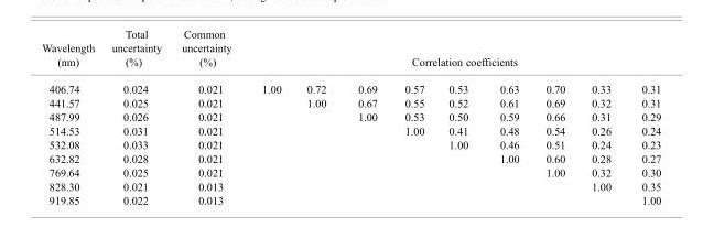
<table><thead><tr><td rowspan="2">Wavelength (nm) 406.74</td><td rowspan="2">uncertainty (%) 0.024</td><td rowspan="2">uncertainty (%) 0.021</td><td colspan="9">Correlation coefficients</td></tr><tr><td>1.00</td><td>0.72</td><td>0.69</td><td>0.57</td><td>0.53</td><td>0.63</td><td>0.70</td><td>0.33</td><td>0.31</td></tr></thead><tbody><tr><td>441.57</td><td>0.025</td><td>0.021</td><td></td><td>1.00</td><td>0.67</td><td>0.55</td><td>0.52</td><td>0.61</td><td>0.69</td><td>0.32</td><td>0.31</td></tr><tr><td>487.99</td><td>0.026</td><td>0.021</td><td></td><td></td><td>1.00</td><td>0.53</td><td>0.50</td><td>0.59</td><td>0.66</td><td>0.31</td><td>0.29</td></tr><tr><td>514.53</td><td>0.031</td><td>0.021</td><td></td><td></td><td></td><td>1.00</td><td>0.41</td><td>0.48</td><td>0.54</td><td>0.26</td><td>0.24</td></tr><tr><td>532.08</td><td>0.033</td><td>0.021</td><td></td><td></td><td></td><td></td><td>1.00</td><td>0.46</td><td>0.51</td><td>0.24</td><td>0.23</td></tr><tr><td>632.82</td><td>0.028</td><td>0.021</td><td></td><td></td><td></td><td></td><td></td><td>1.00</td><td>0.60</td><td>0.28</td><td>0.27</td></tr><tr><td>769.64</td><td>0.025</td><td>0.021</td><td></td><td></td><td></td><td></td><td></td><td></td><td>1.00</td><td>0.32</td><td>0.30</td></tr><tr><td>828.30</td><td>0.021</td><td>0.013</td><td></td><td></td><td></td><td></td><td></td><td></td><td></td><td>1.00</td><td>0.35</td></tr><tr><td>919.85</td><td>0.022</td><td>0.013</td><td></td><td></td><td></td><td></td><td></td><td></td><td></td><td></td><td>1.00</td></tr></tbody></table>